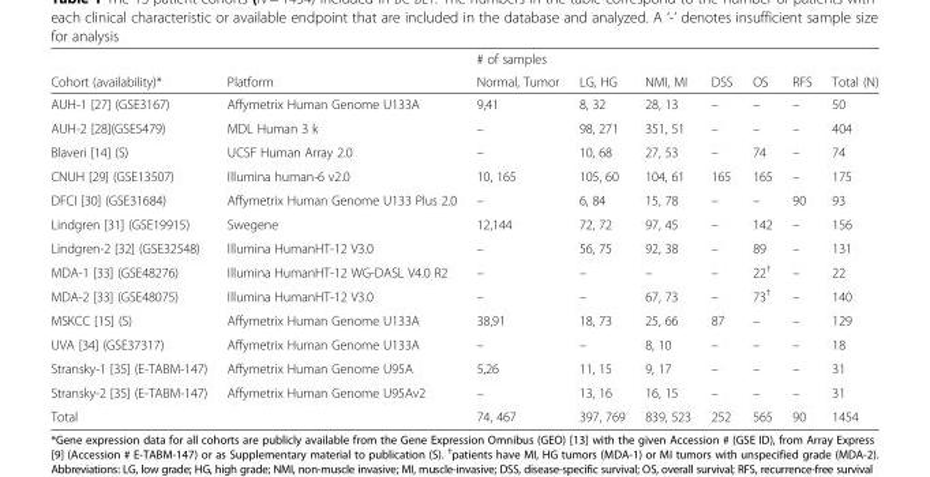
<table><thead><tr><td rowspan="2">Cohort (availability)*</td><td rowspan="2">Platform</td><td colspan="7"># of samples</td></tr><tr><td>Normal, Tumor</td><td>LG, HG</td><td>NMI, MI</td><td>DSS</td><td>OS</td><td>RFS</td><td>Total (N)</td></tr></thead><tbody><tr><td>AUH-1 [27] (GSE3167)</td><td>Affymetrix Human Genome U133A</td><td>9,41</td><td>8, 32</td><td>28, 13</td><td>–</td><td>–</td><td>–</td><td>50</td></tr><tr><td>AUH-2 [28](GSE5479)</td><td>MDL Human 3 k</td><td>–</td><td>98, 271</td><td>351, 51</td><td>–</td><td>–</td><td>–</td><td>404</td></tr><tr><td>Blaveri [14] (S)</td><td>UCSF Human Array 2.0</td><td>–</td><td>10, 68</td><td>27, 53</td><td>–</td><td>74</td><td>–</td><td>74</td></tr><tr><td>CNUH [29] (GSE13507)</td><td>Illumina human-6 v2.0</td><td>10, 165</td><td>105, 60</td><td>104, 61</td><td>165</td><td>165</td><td>–</td><td>175</td></tr><tr><td>DFCI [30] (GSE31684)</td><td>Affymetrix Human Genome U133 Plus 2.0</td><td>–</td><td>6, 84</td><td>15, 78</td><td>–</td><td>–</td><td>90</td><td>93</td></tr><tr><td>Lindgren [31] (GSE19915)</td><td>Swegene</td><td>12,144</td><td>72, 72</td><td>97, 45</td><td>–</td><td>142</td><td>–</td><td>156</td></tr><tr><td>Lindgren-2 [32] (GSE32548)</td><td>Illumina HumanHT-12 V3.0</td><td>–</td><td>56, 75</td><td>92, 38</td><td>–</td><td>89</td><td>–</td><td>131</td></tr><tr><td>MDA-1 [33] (GSE48276)</td><td>Illumina HumanHT-12 WG-DASL V4.0 R2</td><td>–</td><td>–</td><td>–</td><td>–</td><td>22<sup>†</sup></td><td>–</td><td>22</td></tr><tr><td>MDA-2 [33] (GSE48075)</td><td>Illumina HumanHT-12 V3.0</td><td>–</td><td>–</td><td>67, 73</td><td>–</td><td>73<sup>†</sup></td><td>–</td><td>140</td></tr><tr><td>MSKCC [15] (S)</td><td>Affymetrix Human Genome U133A</td><td>38,91</td><td>18, 73</td><td>25, 66</td><td>87</td><td>–</td><td>–</td><td>129</td></tr><tr><td>UVA [34] (GSE37317)</td><td>Affymetrix Human Genome U133A</td><td>–</td><td>–</td><td>8, 10</td><td>–</td><td>–</td><td>–</td><td>18</td></tr><tr><td>Stransky-1 [35] (E-TABM-147)</td><td>Affymetrix Human Genome U95A</td><td>5,26</td><td>11, 15</td><td>9, 17</td><td>–</td><td>–</td><td>–</td><td>31</td></tr><tr><td>Stransky-2 [35] (E-TABM-147)</td><td>Affymetrix Human Genome U95Av2</td><td>–</td><td>13, 16</td><td>16, 15</td><td>–</td><td>–</td><td>–</td><td>31</td></tr><tr><td>Total</td><td></td><td>74, 467</td><td>397, 769</td><td>839, 523</td><td>252</td><td>565</td><td>90</td><td>1454</td></tr></tbody></table>